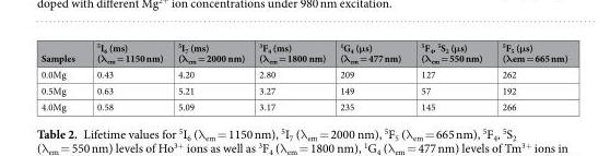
<table><thead><tr><td>Samples</td><td><sup>5</sup>I<sub>6</sub> (ms) (λ<sub>em</sub> = 1150 nm)</td><td><sup>5</sup>I<sub>7</sub> (ms) (λ<sub>em</sub> = 2000 nm)</td><td><sup>3</sup>F<sub>4</sub> (ms) (λ<sub>em</sub> = 1800 nm)</td><td><sup>1</sup>G<sub>4</sub> (μs) (λ<sub>em</sub> = 477 nm)</td><td><sup>5</sup>F<sub>4</sub>, <sup>5</sup>S<sub>2</sub> (μs) (λ<sub>em</sub> = 550 nm)</td><td><sup>5</sup>F<sub>5</sub> (μs) (λem = 665 nm)</td></tr></thead><tbody><tr><td>0.0Mg</td><td>0.43</td><td>4.20</td><td>2.80</td><td>209</td><td>127</td><td>262</td></tr><tr><td>0.5Mg</td><td>0.63</td><td>5.21</td><td>3.27</td><td>149</td><td>57</td><td>192</td></tr><tr><td>4.0Mg</td><td>0.58</td><td>5.09</td><td>3.17</td><td>235</td><td>145</td><td>266</td></tr></tbody></table>